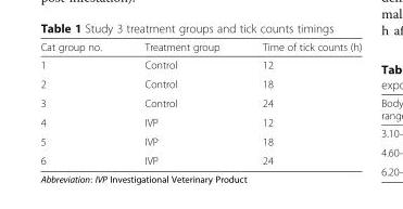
<table><thead><tr><td>Cat group no.</td><td>Treatment group</td><td>Time of tick counts (h)</td></tr></thead><tbody><tr><td>1</td><td>Control</td><td>12</td></tr><tr><td>2</td><td>Control</td><td>18</td></tr><tr><td>3</td><td>Control</td><td>24</td></tr><tr><td>4</td><td>IVP</td><td>12</td></tr><tr><td>5</td><td>IVP</td><td>18</td></tr><tr><td>6</td><td>IVP</td><td>24</td></tr></tbody></table>